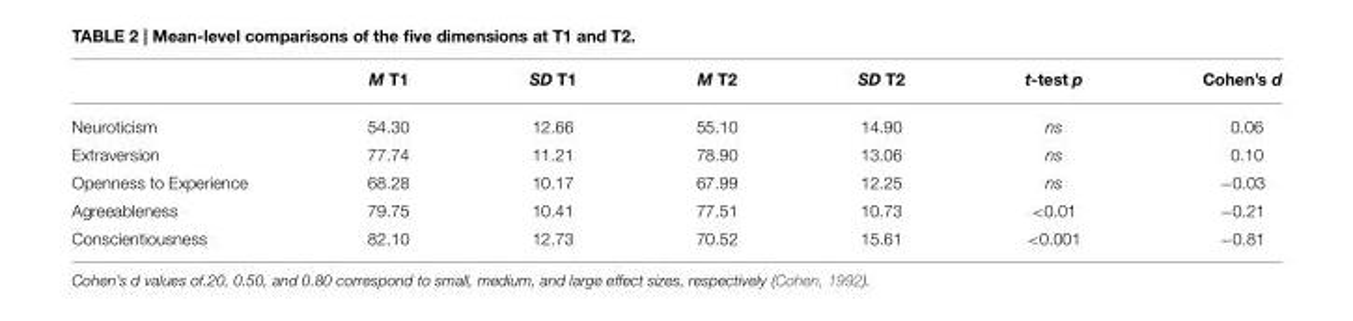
<table><thead><tr><td></td><td>M T1</td><td>SD T1</td><td>M T2</td><td>SD T2</td><td>t-test p</td><td>Cohen’s d</td></tr></thead><tbody><tr><td>Neuroticism</td><td>54.30</td><td>12.66</td><td>55.10</td><td>14.90</td><td>ns</td><td>0.06</td></tr><tr><td>Extraversion</td><td>77.74</td><td>11.21</td><td>78.90</td><td>13.06</td><td>ns</td><td>0.10</td></tr><tr><td>Openness to Experience</td><td>68.28</td><td>10.17</td><td>67.99</td><td>12.25</td><td>ns</td><td>−0.03</td></tr><tr><td>Agreeableness</td><td>79.75</td><td>10.41</td><td>77.51</td><td>10.73</td><td>&lt;0.01</td><td>−0.21</td></tr><tr><td>Conscientiousness</td><td>82.10</td><td>12.73</td><td>70.52</td><td>15.61</td><td>&lt;0.001</td><td>−0.81</td></tr></tbody></table>